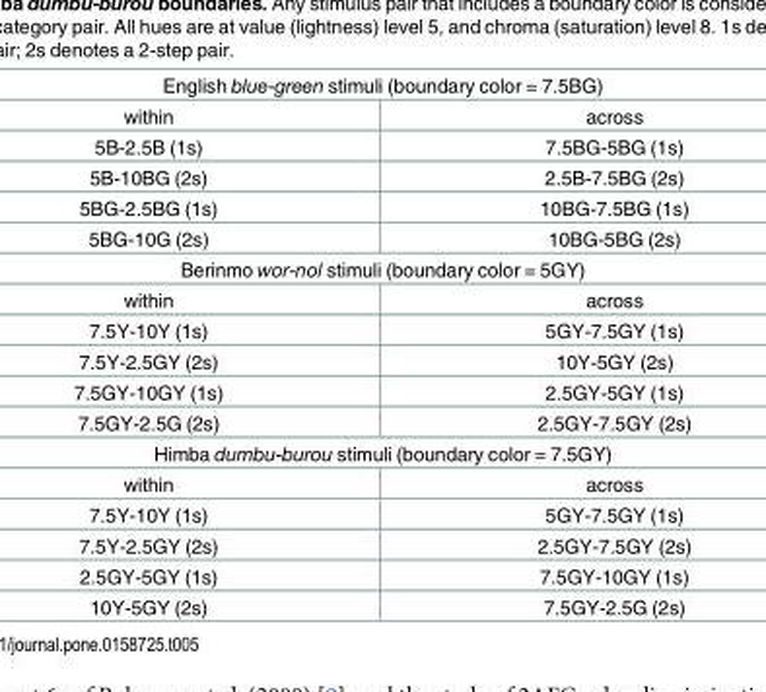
<table><tbody><tr><td colspan="2">English blue-green stimuli (boundary color = 7.5BG)</td></tr><tr><td>within</td><td>across</td></tr><tr><td>5B-2.5B (1s)</td><td>7.5BG-5BG (1s)</td></tr><tr><td>5B-10BG (2s)</td><td>2.5B-7.5BG (2s)</td></tr><tr><td>5BG-2.5BG (1s)</td><td>10BG-7.5BG (1s)</td></tr><tr><td>5BG-10G (2s)</td><td>10BG-5BG (2s)</td></tr><tr><td colspan="2">Berinmo wor-nol stimuli (boundary color = 5GY)</td></tr><tr><td>within</td><td>across</td></tr><tr><td>7.5Y-10Y (1s)</td><td>5GY-7.5GY (1s)</td></tr><tr><td>7.5Y-2.5GY (2s)</td><td>10Y-5GY (2s)</td></tr><tr><td>7.5GY-10GY (1s)</td><td>2.5GY-5GY (1s)</td></tr><tr><td>7.5GY-2.5G (2s)</td><td>2.5GY-7.5GY (2s)</td></tr><tr><td colspan="2">Himba dumbu-burou stimuli (boundary color = 7.5GY)</td></tr><tr><td>within</td><td>across</td></tr><tr><td>7.5Y-10Y (1s)</td><td>5GY-7.5GY (1s)</td></tr><tr><td>7.5Y-2.5GY (2s)</td><td>2.5GY-7.5GY (2s)</td></tr><tr><td>2.5GY-5GY (1s)</td><td>7.5GY-10GY (1s)</td></tr><tr><td>10Y-5GY (2s)</td><td>7.5GY-2.5G (2s)</td></tr></tbody></table>